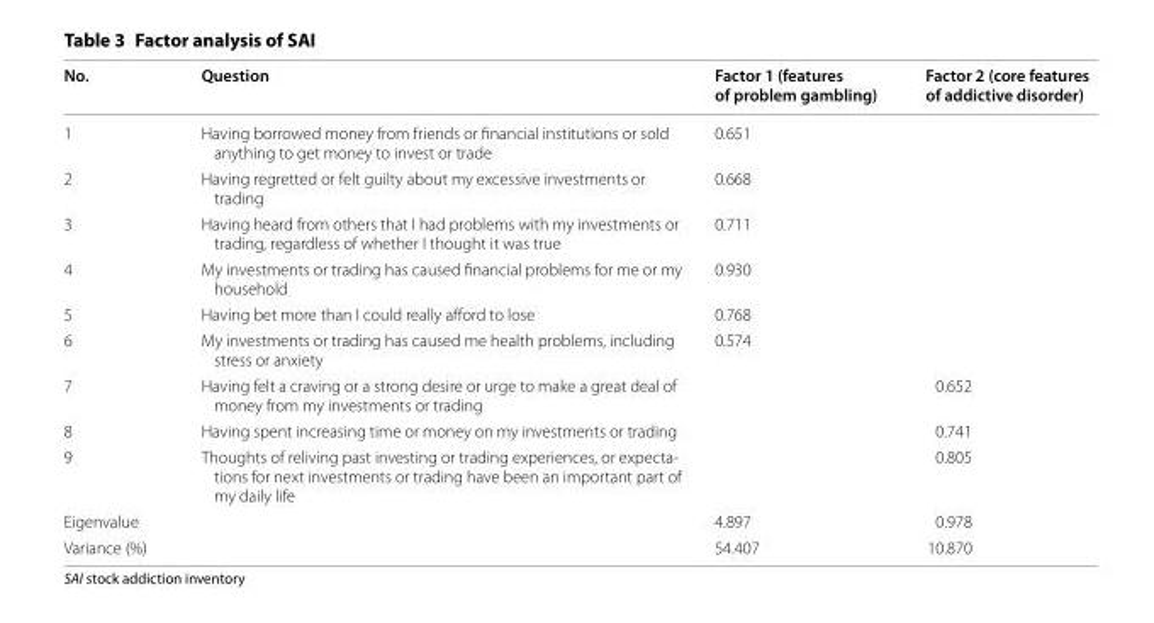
<table><thead><tr><td>No.</td><td>Question</td><td>Factor 1 (features of problem gambling)</td><td>Factor 2 (core features of addictive disorder)</td></tr></thead><tbody><tr><td>1</td><td>Having borrowed money from friends or financial institutions or sold anything to get money to invest or trade</td><td>0.651</td><td></td></tr><tr><td>2</td><td>Having regretted or felt guilty about my excessive investments or trading</td><td>0.668</td><td></td></tr><tr><td>3</td><td>Having heard from others that I had problems with my investments or trading, regardless of whether I thought it was true</td><td>0.711</td><td></td></tr><tr><td>4</td><td>My investments or trading has caused financial problems for me or my household</td><td>0.930</td><td></td></tr><tr><td>5</td><td>Having bet more than I could really afford to lose</td><td>0.768</td><td></td></tr><tr><td>6</td><td>My investments or trading has caused me health problems, including stress or anxiety</td><td>0.574</td><td></td></tr><tr><td>7</td><td>Having felt a craving or a strong desire or urge to make a great deal of money from my investments or trading</td><td></td><td>0.652</td></tr><tr><td>8</td><td>Having spent increasing time or money on my investments or trading</td><td></td><td>0.741</td></tr><tr><td>9</td><td>Thoughts of reliving past investing or trading experiences, or expecta‑ tions for next investments or trading have been an important part of my daily life</td><td></td><td>0.805</td></tr><tr><td>Eigenvalue</td><td rowspan="2"></td><td>4.897</td><td>0.978</td></tr><tr><td>Variance (%)</td><td>54.407</td><td>10.870</td></tr></tbody></table>